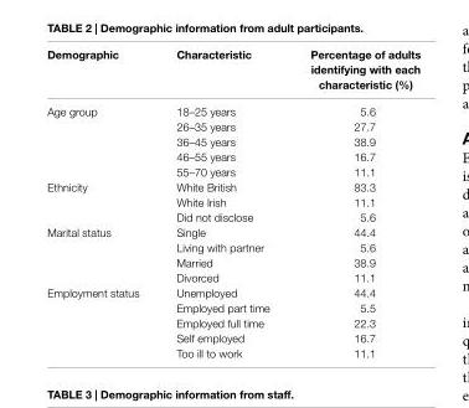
<table><thead><tr><td>Demographic</td><td>characteristic</td><td>Percentage of adults identifying with each characteristic (%)</td></tr></thead><tbody><tr><td rowspan="5">Age group</td><td>18–25 years</td><td>5.6</td></tr><tr><td>26–35 years</td><td>27.7</td></tr><tr><td>36–45 years</td><td>38.9</td></tr><tr><td>46–55 years</td><td>16.7</td></tr><tr><td>55–70 years</td><td>11.1</td></tr><tr><td rowspan="3">Ethnicity</td><td>White British</td><td>83.3</td></tr><tr><td>White Irish</td><td>11.1</td></tr><tr><td>Did not disclose</td><td>5.6</td></tr><tr><td rowspan="4">Marital status</td><td>Single</td><td>44.4</td></tr><tr><td>Living with partner</td><td>5.6</td></tr><tr><td>Married</td><td>38.9</td></tr><tr><td>Divorced</td><td>11.1</td></tr><tr><td rowspan="5">Employment status</td><td>Unemployed</td><td>44.4</td></tr><tr><td>Employed part time</td><td>5.5</td></tr><tr><td>Employed full time</td><td>22.3</td></tr><tr><td>Self employed</td><td>16.7</td></tr><tr><td>Too ill to work</td><td>11.1</td></tr></tbody></table>